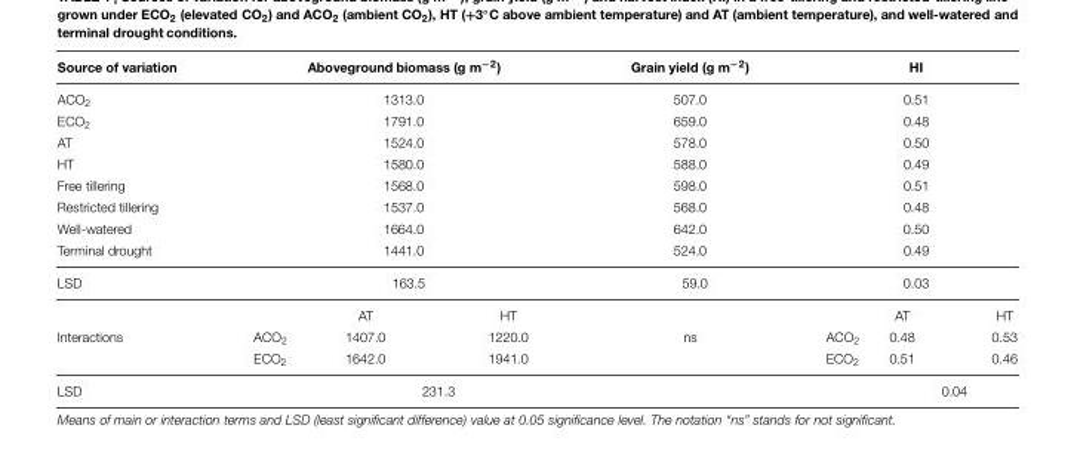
<table><thead><tr><td>Source of variation</td><td colspan="3">Aboveground biomass (g m<sup>−2</sup>)</td><td>Grain yield (g m<sup>−2</sup>)</td><td colspan="3">HI</td></tr></thead><tbody><tr><td>ACO<sub>2</sub></td><td colspan="3">1313.0</td><td>507.0</td><td colspan="3">0.51</td></tr><tr><td>ECO<sub>2</sub></td><td colspan="3">1791.0</td><td>659.0</td><td colspan="3">0.48</td></tr><tr><td>AT</td><td colspan="3">1524.0</td><td>578.0</td><td colspan="3">0.50</td></tr><tr><td>HT</td><td colspan="3">1580.0</td><td>588.0</td><td colspan="3">0.49</td></tr><tr><td>Free tillering</td><td colspan="3">1568.0</td><td>598.0</td><td colspan="3">0.51</td></tr><tr><td>Restricted tillering</td><td colspan="3">1537.0</td><td>568.0</td><td colspan="3">0.48</td></tr><tr><td>Well-watered</td><td colspan="3">1664.0</td><td>642.0</td><td colspan="3">0.50</td></tr><tr><td>Terminal drought</td><td colspan="3">1441.0</td><td>524.0</td><td colspan="3">0.49</td></tr><tr><td rowspan="2">LSD</td><td colspan="3">163.5</td><td>59.0</td><td colspan="3">0.03</td></tr><tr><td></td><td>AT</td><td>HT</td><td></td><td></td><td>AT</td><td>HT</td></tr><tr><td rowspan="2">Interactions</td><td>ACO<sub>2</sub></td><td>1407.0</td><td>1220.0</td><td>ns</td><td>ACO<sub>2</sub></td><td>0.48</td><td>0.53</td></tr><tr><td>ECO<sub>2</sub></td><td>1642.0</td><td>1941.0</td><td></td><td>ECO<sub>2</sub></td><td>0.51</td><td>0.46</td></tr><tr><td>LSD</td><td></td><td colspan="2">231.3</td><td></td><td></td><td colspan="2">0.04</td></tr></tbody></table>